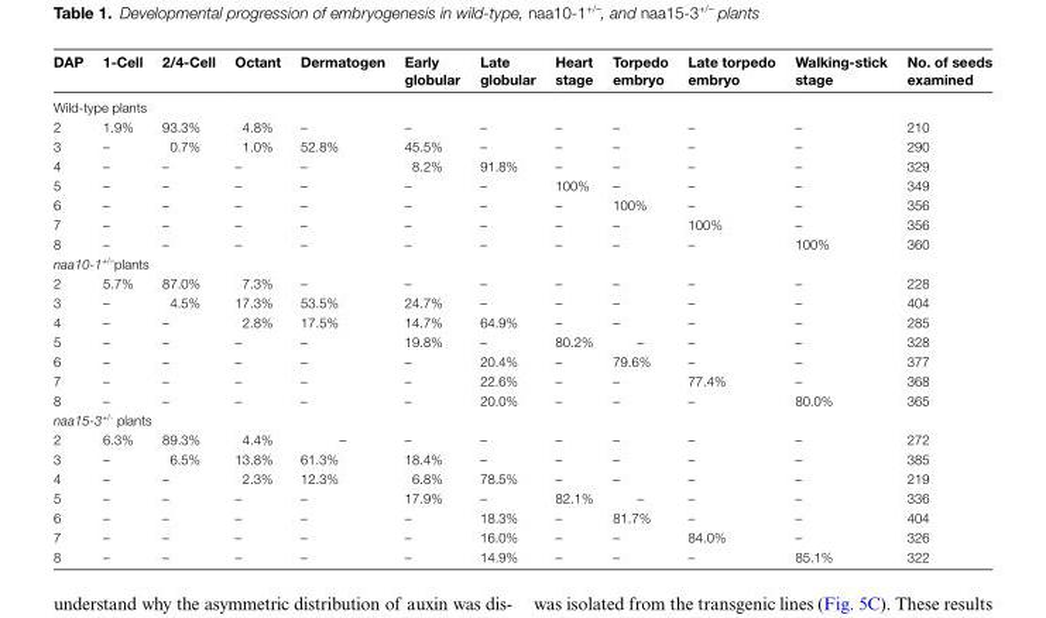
<table><thead><tr><td>DAP</td><td>1-Cell</td><td>2/4-Cell</td><td>Octant</td><td>Dermatogen</td><td>Early globular</td><td>Late globular</td><td>Heart stage</td><td>Torpedo embryo</td><td>Late torpedo embryo</td><td>Walking-stick stage</td><td>No. of seeds examined</td></tr></thead><tbody><tr><td colspan="12">Wild-type plants</td></tr><tr><td>2</td><td>1.9%</td><td>93.3%</td><td>4.8%</td><td>–</td><td>–</td><td>–</td><td>–</td><td>–</td><td>–</td><td>–</td><td>210</td></tr><tr><td>3</td><td>–</td><td>0.7%</td><td>1.0%</td><td>52.8%</td><td>45.5%</td><td>–</td><td>–</td><td>–</td><td>–</td><td>–</td><td>290</td></tr><tr><td>4</td><td>–</td><td>–</td><td>–</td><td>–</td><td>8.2%</td><td>91.8%</td><td>–</td><td>–</td><td>–</td><td>–</td><td>329</td></tr><tr><td>5</td><td>–</td><td>–</td><td>–</td><td>–</td><td>–</td><td>–</td><td>100%</td><td>–</td><td>–</td><td>–</td><td>349</td></tr><tr><td>6</td><td>–</td><td>–</td><td>–</td><td>–</td><td>–</td><td>–</td><td>–</td><td>100%</td><td>–</td><td>–</td><td>356</td></tr><tr><td>7</td><td>–</td><td>–</td><td>–</td><td>–</td><td>–</td><td>–</td><td>–</td><td>–</td><td>100%</td><td>–</td><td>356</td></tr><tr><td>8</td><td>–</td><td>–</td><td>–</td><td>–</td><td>–</td><td>–</td><td>–</td><td>–</td><td>–</td><td>100%</td><td>360</td></tr><tr><td colspan="12">naa10-1<sup>+/–</sup>plants</td></tr><tr><td>2</td><td>5.7%</td><td>87.0%</td><td>7.3%</td><td>–</td><td>–</td><td>–</td><td>–</td><td>–</td><td>–</td><td>–</td><td>228</td></tr><tr><td>3</td><td>–</td><td>4.5%</td><td>17.3%</td><td>53.5%</td><td>24.7%</td><td>–</td><td>–</td><td>–</td><td>–</td><td>–</td><td>404</td></tr><tr><td>4</td><td>–</td><td>–</td><td>2.8%</td><td>17.5%</td><td>14.7%</td><td>64.9%</td><td>–</td><td>–</td><td>–</td><td>–</td><td>285</td></tr><tr><td>5</td><td>–</td><td>–</td><td>–</td><td>–</td><td>19.8%</td><td>–</td><td>80.2%</td><td>–</td><td>–</td><td>–</td><td>328</td></tr><tr><td>6</td><td>–</td><td>–</td><td>–</td><td>–</td><td>–</td><td>20.4%</td><td>–</td><td>79.6%</td><td>–</td><td>–</td><td>377</td></tr><tr><td>7</td><td>–</td><td>–</td><td>–</td><td>–</td><td>–</td><td>22.6%</td><td>–</td><td>–</td><td>77.4%</td><td>–</td><td>368</td></tr><tr><td>8</td><td>–</td><td>–</td><td>–</td><td>–</td><td>–</td><td>20.0%</td><td>–</td><td>–</td><td>–</td><td>80.0%</td><td>365</td></tr><tr><td colspan="12">naa15-3<sup>+/-</sup> plants</td></tr><tr><td>2</td><td>6.3%</td><td>89.3%</td><td>4.4%</td><td>–</td><td>–</td><td>–</td><td>–</td><td>–</td><td>–</td><td>–</td><td>272</td></tr><tr><td>3</td><td>–</td><td>6.5%</td><td>13.8%</td><td>61.3%</td><td>18.4%</td><td>–</td><td>–</td><td>–</td><td>–</td><td>–</td><td>385</td></tr><tr><td>4</td><td>–</td><td>–</td><td>2.3%</td><td>12.3%</td><td>6.8%</td><td>78.5%</td><td>–</td><td>–</td><td>–</td><td>–</td><td>219</td></tr><tr><td>5</td><td>–</td><td>–</td><td>–</td><td>–</td><td>17.9%</td><td>–</td><td>82.1%</td><td>–</td><td>–</td><td>–</td><td>336</td></tr><tr><td>6</td><td>–</td><td>–</td><td>–</td><td>–</td><td>–</td><td>18.3%</td><td>–</td><td>81.7%</td><td>–</td><td>–</td><td>404</td></tr><tr><td>7</td><td>–</td><td>–</td><td>–</td><td>–</td><td>–</td><td>16.0%</td><td>–</td><td>–</td><td>84.0%</td><td>–</td><td>326</td></tr><tr><td>8</td><td>–</td><td>–</td><td>–</td><td>–</td><td>–</td><td>14.9%</td><td>–</td><td>–</td><td>–</td><td>85.1%</td><td>322</td></tr></tbody></table>